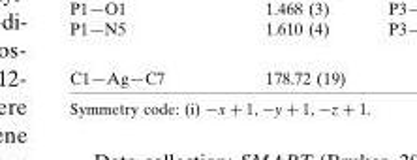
<table><tbody><tr><td>C1—Ag—C7</td><td>178.72 (19)</td></tr></tbody></table>